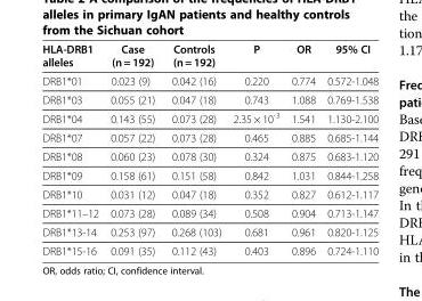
<table><thead><tr><td>HLA-DRB1 alleles</td><td>Case (n = 192)</td><td>Controls (n = 192)</td><td>P</td><td>OR</td><td>95% CI</td></tr></thead><tbody><tr><td>DRB1*01</td><td>0.023 (9)</td><td>0.042 (16)</td><td>0.220</td><td>0.774</td><td>0.572-1.048</td></tr><tr><td>DRB1*03</td><td>0.055 (21)</td><td>0.047 (18)</td><td>0.743</td><td>1.088</td><td>0.769-1.538</td></tr><tr><td>DRB1*04</td><td>0.143 (55)</td><td>0.073 (28)</td><td>2.35 × 10<sup>-3</sup></td><td>1.541</td><td>1.130-2.100</td></tr><tr><td>DRB1*07</td><td>0.057 (22)</td><td>0.073 (28)</td><td>0.465</td><td>0.885</td><td>0.685-1.144</td></tr><tr><td>DRB1*08</td><td>0.060 (23)</td><td>0.078 (30)</td><td>0.324</td><td>0.875</td><td>0.683-1.120</td></tr><tr><td>DRB1*09</td><td>0.158 (61)</td><td>0.151 (58)</td><td>0.842</td><td>1.031</td><td>0.844-1.258</td></tr><tr><td>DRB1*10</td><td>0.031 (12)</td><td>0.047 (18)</td><td>0.352</td><td>0.827</td><td>0.612-1.117</td></tr><tr><td>DRB1*11–12</td><td>0.073 (28)</td><td>0.089 (34)</td><td>0.508</td><td>0.904</td><td>0.713-1.147</td></tr><tr><td>DRB1*13-14</td><td>0.253 (97)</td><td>0.268 (103)</td><td>0.681</td><td>0.961</td><td>0.820-1.125</td></tr><tr><td>DRB1*15-16</td><td>0.091 (35)</td><td>0.112 (43)</td><td>0.403</td><td>0.896</td><td>0.724-1.110</td></tr></tbody></table>